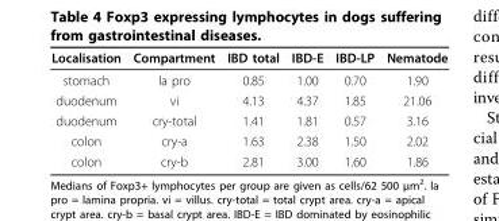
<table><thead><tr><td>Localisation</td><td>Compartment</td><td>IBD total</td><td>IBD-E</td><td>IBD-LP</td><td>Nematode</td></tr></thead><tbody><tr><td>stomach</td><td>la pro</td><td>0.85</td><td>1.00</td><td>0.70</td><td>1.90</td></tr><tr><td>duodenum</td><td>vi</td><td>4.13</td><td>4.37</td><td>1.85</td><td>21.06</td></tr><tr><td>duodenum</td><td>cry-total</td><td>1.41</td><td>1.81</td><td>0.57</td><td>3.16</td></tr><tr><td>colon</td><td>cry-a</td><td>1.63</td><td>2.38</td><td>1.50</td><td>2.02</td></tr><tr><td>colon</td><td>cry-b</td><td>2.81</td><td>3.00</td><td>1.60</td><td>1.86</td></tr></tbody></table>